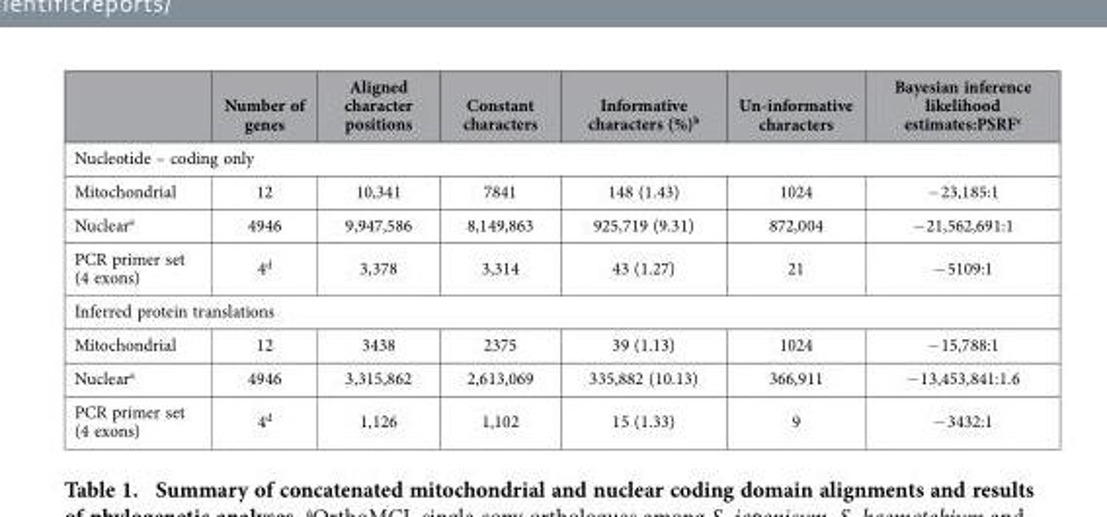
<table><thead><tr><td></td><td>Number of genes</td><td>Aligned character positions</td><td>Constant characters</td><td>Informative characters (%)<sup>b</sup></td><td>Un-informative characters</td><td>Bayesian inference likelihood estimates:PSRF<sup>c</sup></td></tr></thead><tbody><tr><td colspan="7">Nucleotide – coding only</td></tr><tr><td>Mitochondrial</td><td>12</td><td>10,341</td><td>7841</td><td>148 (1.43)</td><td>1024</td><td>− 23,185:1</td></tr><tr><td>Nuclear<sup>a</sup></td><td>4946</td><td>9,947,586</td><td>8,149,863</td><td>925,719 (9.31)</td><td>872,004</td><td>− 21,562,691:1</td></tr><tr><td>PCR primer set (4 exons)</td><td>4<sup>d</sup></td><td>3,378</td><td>3,314</td><td>43 (1.27)</td><td>21</td><td>− 5109:1</td></tr><tr><td colspan="7">Inferred protein translations</td></tr><tr><td>Mitochondrial</td><td>12</td><td>3438</td><td>2375</td><td>39 (1.13)</td><td>1024</td><td>− 15,788:1</td></tr><tr><td>Nuclear<sup>a</sup></td><td>4946</td><td>3,315,862</td><td>2,613,069</td><td>335,882 (10.13)</td><td>366,911</td><td>− 13,453,841:1.6</td></tr><tr><td>PCR primer set (4 exons)</td><td>4<sup>d</sup></td><td>1,126</td><td>1,102</td><td>15 (1.33)</td><td>9</td><td>− 3432:1</td></tr></tbody></table>